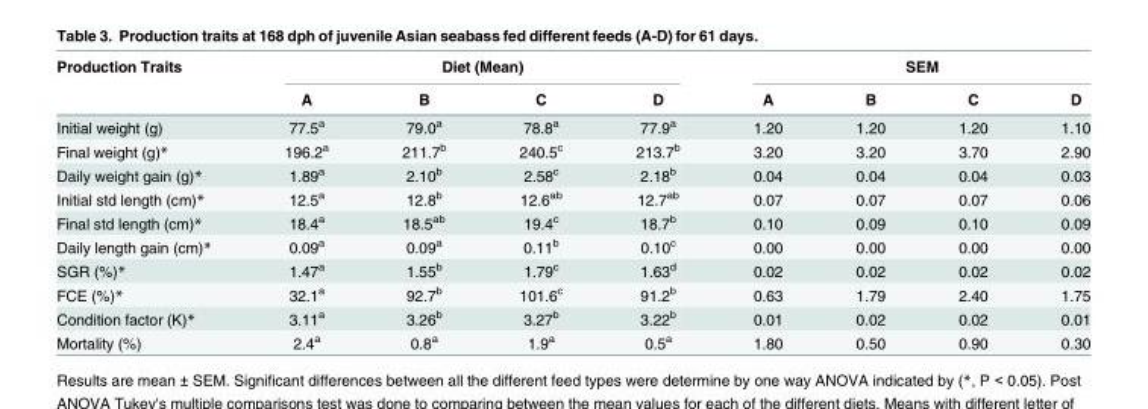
<table><thead><tr><td rowspan="2">Production Traits</td><td colspan="4">Diet (Mean)</td><td colspan="4">SEM</td></tr><tr><td>A</td><td>B</td><td>C</td><td>D</td><td>A</td><td>B</td><td>C</td><td>D</td></tr></thead><tbody><tr><td>Initial weight (g)</td><td>77.5<sup>a</sup></td><td>79.0<sup>a</sup></td><td>78.8<sup>a</sup></td><td>77.9<sup>a</sup></td><td>1.20</td><td>1.20</td><td>1.20</td><td>1.10</td></tr><tr><td>Final weight (g)*</td><td>196.2<sup>a</sup></td><td>211.7<sup>b</sup></td><td>240.5<sup>c</sup></td><td>213.7<sup>b</sup></td><td>3.20</td><td>3.20</td><td>3.70</td><td>2.90</td></tr><tr><td>Daily weight gain (g)*</td><td>1.89<sup>a</sup></td><td>2.10<sup>b</sup></td><td>2.58<sup>c</sup></td><td>2.18<sup>b</sup></td><td>0.04</td><td>0.04</td><td>0.04</td><td>0.03</td></tr><tr><td>Initial std length (cm)*</td><td>12.5<sup>a</sup></td><td>12.8<sup>b</sup></td><td>12.6<sup>ab</sup></td><td>12.7<sup>ab</sup></td><td>0.07</td><td>0.07</td><td>0.07</td><td>0.06</td></tr><tr><td>Final std length (cm)*</td><td>18.4<sup>a</sup></td><td>18.5<sup>ab</sup></td><td>19.4<sup>c</sup></td><td>18.7<sup>b</sup></td><td>0.10</td><td>0.09</td><td>0.10</td><td>0.09</td></tr><tr><td>Daily length gain (cm)*</td><td>0.09<sup>a</sup></td><td>0.09<sup>a</sup></td><td>0.11<sup>b</sup></td><td>0.10<sup>c</sup></td><td>0.00</td><td>0.00</td><td>0.00</td><td>0.00</td></tr><tr><td>SGR (%)*</td><td>1.47<sup>a</sup></td><td>1.55<sup>b</sup></td><td>1.79<sup>c</sup></td><td>1.63<sup>d</sup></td><td>0.02</td><td>0.02</td><td>0.02</td><td>0.02</td></tr><tr><td>FCE (%)*</td><td>32.1<sup>a</sup></td><td>92.7<sup>b</sup></td><td>101.6<sup>c</sup></td><td>91.2<sup>b</sup></td><td>0.63</td><td>1.79</td><td>2.40</td><td>1.75</td></tr><tr><td>Condition factor (K)*</td><td>3.11<sup>a</sup></td><td>3.26<sup>b</sup></td><td>3.27<sup>b</sup></td><td>3.22<sup>b</sup></td><td>0.01</td><td>0.02</td><td>0.02</td><td>0.01</td></tr><tr><td>Mortality (%)</td><td>2.4<sup>a</sup></td><td>0.8<sup>a</sup></td><td>1.9<sup>a</sup></td><td>0.5<sup>a</sup></td><td>1.80</td><td>0.50</td><td>0.90</td><td>0.30</td></tr></tbody></table>